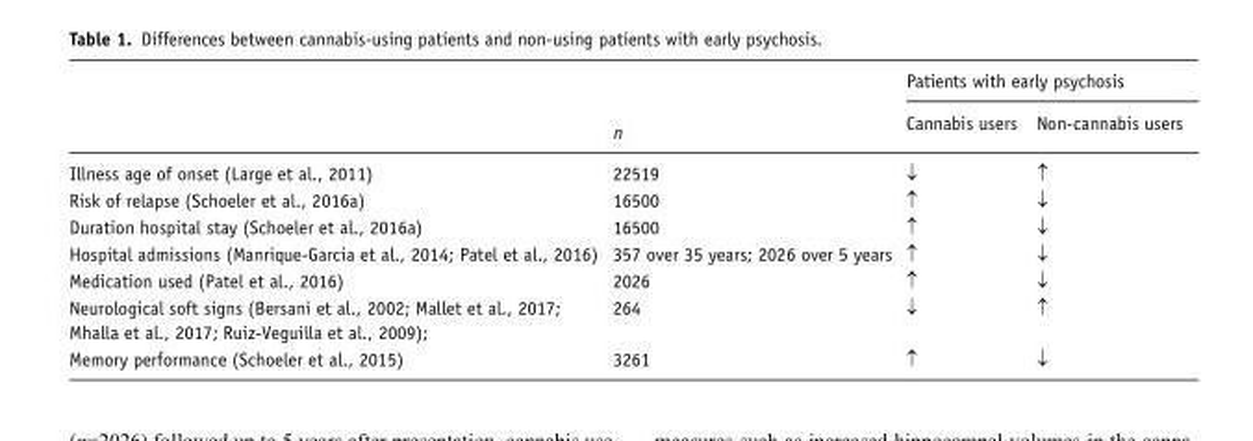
<table><thead><tr><td rowspan="2"></td><td rowspan="2">n</td><td colspan="2">Patients with early psychosis</td></tr><tr><td>Cannabis users</td><td>Non-cannabis users</td></tr></thead><tbody><tr><td>Illness age of onset (Large et al., 2011)</td><td>22519</td><td>↓</td><td>↑</td></tr><tr><td>Risk of relapse (Schoeler et al., 2016a)</td><td>16500</td><td>↑</td><td>↓</td></tr><tr><td>Duration hospital stay (Schoeler et al., 2016a)</td><td>16500</td><td>↑</td><td>↓</td></tr><tr><td>Hospital admissions (Manrique-Garcia et al., 2014; Patel et al., 2016)</td><td>357 over 35 years; 2026 over 5 years</td><td>↑</td><td>↓</td></tr><tr><td>Medication used (Patel et al., 2016)</td><td>2026</td><td>↑</td><td>↓</td></tr><tr><td>Neurological soft signs (Bersani et al., 2002; Mallet et al., 2017; Mhalla et al., 2017; Ruiz-Veguilla et al., 2009);</td><td>264</td><td>↓</td><td>↑</td></tr><tr><td>Memory performance (Schoeler et al., 2015)</td><td>3261</td><td>↑</td><td>↓</td></tr></tbody></table>